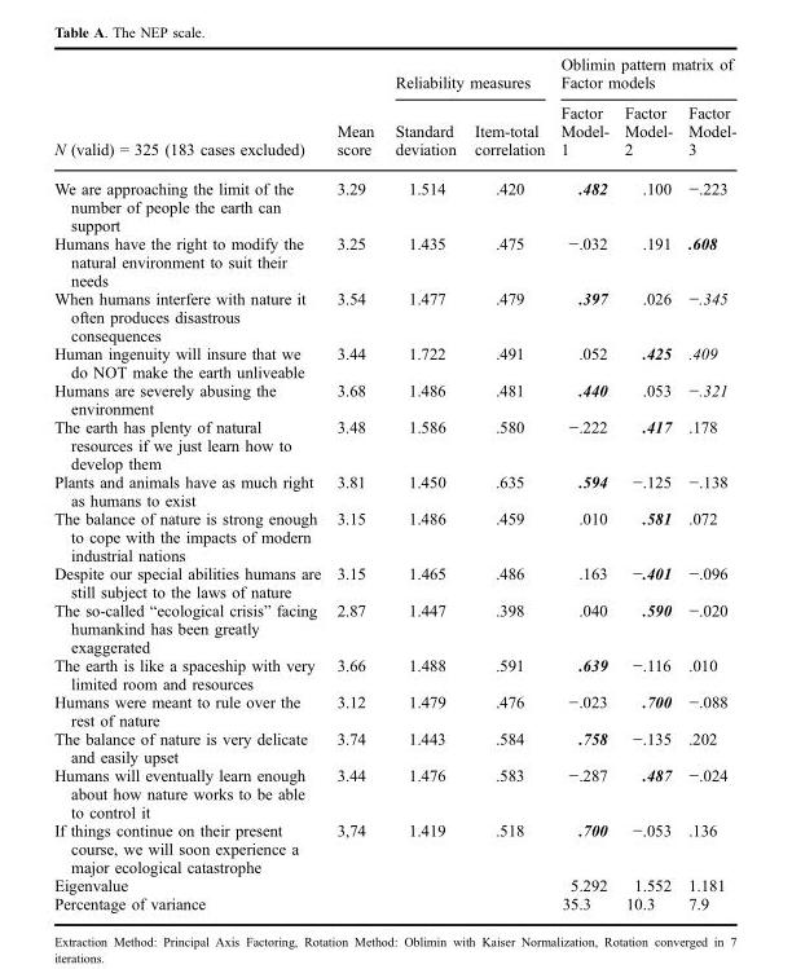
<table><thead><tr><td rowspan="2">N (valid) = 325 (183 cases excluded)</td><td rowspan="2">Mean score</td><td colspan="2">Reliability measures</td><td colspan="3">Oblimin pattern matrix of Factor models</td></tr><tr><td>Standard deviation</td><td>Item-total correlation</td><td>Factor Model- 1</td><td>Factor Model- 2</td><td>Factor Model- 3</td></tr></thead><tbody><tr><td>We are approaching the limit of the number of people the earth can support</td><td>3.29</td><td>1.514</td><td>.420</td><td>.482</td><td>.100</td><td>−.223</td></tr><tr><td>Humans have the right to modify the natural environment to suit their needs</td><td>3.25</td><td>1.435</td><td>.475</td><td>−.032</td><td>.191</td><td>.608</td></tr><tr><td>When humans interfere with nature it often produces disastrous consequences</td><td>3.54</td><td>1.477</td><td>.479</td><td>.397</td><td>.026</td><td>−.345</td></tr><tr><td>Human ingenuity will insure that we do NOT make the earth unliveable</td><td>3.44</td><td>1.722</td><td>.491</td><td>.052</td><td>.425</td><td>.409</td></tr><tr><td>Humans are severely abusing the environment</td><td>3.68</td><td>1.486</td><td>.481</td><td>.440</td><td>.053</td><td>−.321</td></tr><tr><td>The earth has plenty of natural resources if we just learn how to develop them</td><td>3.48</td><td>1.586</td><td>.580</td><td>−.222</td><td>.417</td><td>.178</td></tr><tr><td>Plants and animals have as much right as humans to exist</td><td>3.81</td><td>1.450</td><td>.635</td><td>.594</td><td>−.125</td><td>−.138</td></tr><tr><td>The balance of nature is strong enough to cope with the impacts of modern industrial nations</td><td>3.15</td><td>1.486</td><td>.459</td><td>.010</td><td>.581</td><td>.072</td></tr><tr><td>Despite our special abilities humans are still subject to the laws of nature</td><td>3.15</td><td>1.465</td><td>.486</td><td>.163</td><td>−.401</td><td>−.096</td></tr><tr><td>The so-called “ecological crisis” facing humankind has been greatly exaggerated</td><td>2.87</td><td>1.447</td><td>.398</td><td>.040</td><td>.590</td><td>−.020</td></tr><tr><td>The earth is like a spaceship with very limited room and resources</td><td>3.66</td><td>1.488</td><td>.591</td><td>.639</td><td>−.116</td><td>.010</td></tr><tr><td>Humans were meant to rule over the rest of nature</td><td>3.12</td><td>1.479</td><td>.476</td><td>−.023</td><td>.700</td><td>−.088</td></tr><tr><td>The balance of nature is very delicate and easily upset</td><td>3.74</td><td>1.443</td><td>.584</td><td>.758</td><td>−.135</td><td>.202</td></tr><tr><td>Humans will eventually learn enough about how nature works to be able to control it</td><td>3.44</td><td>1.476</td><td>.583</td><td>−.287</td><td>.487</td><td>−.024</td></tr><tr><td>If things continue on their present course, we will soon experience a major ecological catastrophe</td><td>3,74</td><td>1.419</td><td>.518</td><td>.700</td><td>−.053</td><td>.136</td></tr><tr><td>Eigenvalue</td><td></td><td></td><td></td><td>5.292</td><td>1.552</td><td>1.181</td></tr><tr><td>Percentage of variance</td><td></td><td></td><td></td><td>35.3</td><td>10.3</td><td>7.9</td></tr></tbody></table>